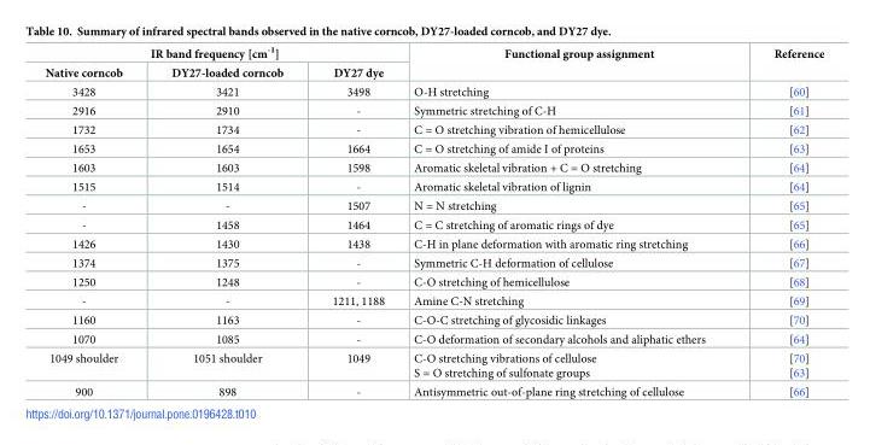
<table><thead><tr><td colspan="3">IR band frequency [cm<sup>-1</sup>]</td><td rowspan="2">Functional group assignment</td><td rowspan="2">Reference</td></tr><tr><td>Native corncob</td><td>DY27-loaded corncob</td><td>DY27 dye</td></tr></thead><tbody><tr><td>3428</td><td>3421</td><td>3498</td><td>O-H stretching</td><td>[60]</td></tr><tr><td>2916</td><td>2910</td><td>-</td><td>Symmetric stretching of C-H</td><td>[61]</td></tr><tr><td>1732</td><td>1734</td><td>-</td><td>C = O stretching vibration of hemicellulose</td><td>[62]</td></tr><tr><td>1653</td><td>1654</td><td>1664</td><td>C = O stretching of amide I of proteins</td><td>[63]</td></tr><tr><td>1603</td><td>1603</td><td>1598</td><td>Aromatic skeletal vibration + C = O stretching</td><td>[64]</td></tr><tr><td>1515</td><td>1514</td><td>-</td><td>Aromatic skeletal vibration of lignin</td><td>[64]</td></tr><tr><td>-</td><td>-</td><td>1507</td><td>N = N stretching</td><td>[65]</td></tr><tr><td>-</td><td>1458</td><td>1464</td><td>C = C stretching of aromatic rings of dye</td><td>[65]</td></tr><tr><td>1426</td><td>1430</td><td>1438</td><td>C-H in plane deformation with aromatic ring stretching</td><td>[66]</td></tr><tr><td>1374</td><td>1375</td><td>-</td><td>Symmetric C-H deformation of cellulose</td><td>[67]</td></tr><tr><td>1250</td><td>1248</td><td>-</td><td>C-O stretching of hemicellulose</td><td>[68]</td></tr><tr><td>-</td><td>-</td><td>1211, 1188</td><td>Amine C-N stretching</td><td>[69]</td></tr><tr><td>1160</td><td>1163</td><td>-</td><td>C-O-C stretching of glycosidic linkages</td><td>[70]</td></tr><tr><td>1070</td><td>1085</td><td>-</td><td>C-O deformation of secondary alcohols and aliphatic ethers</td><td>[64]</td></tr><tr><td>1049 shoulder</td><td>1051 shoulder</td><td>1049</td><td>C-O stretching vibrations of cellulose S = O stretching of sulfonate groups</td><td>[70] [63]</td></tr><tr><td>900</td><td>898</td><td>-</td><td>Antisymmetric out-of-plane ring stretching of cellulose</td><td>[66]</td></tr></tbody></table>